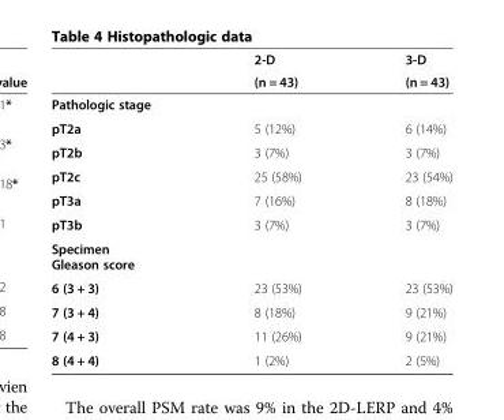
<table><thead><tr><td rowspan="2"></td><td rowspan="2">2-D (n = 43)</td><td rowspan="2">3-D (n = 43)</td></tr><tr></tr></thead><tbody><tr><td colspan="3">Pathologic stage</td></tr><tr><td>pT2a</td><td>5 (12%)</td><td>6 (14%)</td></tr><tr><td>pT2b</td><td>3 (7%)</td><td>3 (7%)</td></tr><tr><td>pT2c</td><td>25 (58%)</td><td>23 (54%)</td></tr><tr><td>pT3a</td><td>7 (16%)</td><td>8 (18%)</td></tr><tr><td>pT3b</td><td>3 (7%)</td><td>3 (7%)</td></tr><tr><td colspan="3">Specimen Gleason score</td></tr><tr><td>6 (3 + 3)</td><td>23 (53%)</td><td>23 (53%)</td></tr><tr><td>7 (3 + 4)</td><td>8 (18%)</td><td>9 (21%)</td></tr><tr><td>7 (4 + 3)</td><td>11 (26%)</td><td>9 (21%)</td></tr><tr><td>8 (4 + 4)</td><td>1 (2%)</td><td>2 (5%)</td></tr></tbody></table>